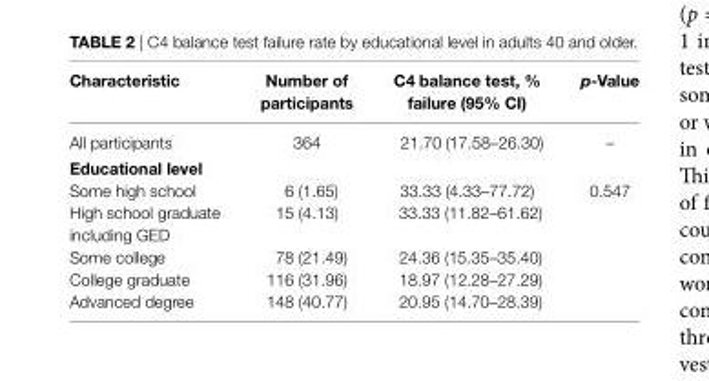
<table><thead><tr><td>characteristic</td><td>number of participants</td><td>c4 balance test, % failure (95% ci)</td><td>p-Value</td></tr></thead><tbody><tr><td>All participants</td><td>364</td><td>21.70 (17.58–26.30)</td><td>–</td></tr><tr><td colspan="4">educational level</td></tr><tr><td>Some high school</td><td>6 (1.65)</td><td>33.33 (4.33–77.72)</td><td rowspan="5">0.547</td></tr><tr><td>High school graduate including GED</td><td>15 (4.13)</td><td>33.33 (11.82–61.62)</td></tr><tr><td>Some college</td><td>78 (21.49)</td><td>24.36 (15.35–35.40)</td></tr><tr><td>College graduate</td><td>116 (31.96)</td><td>18.97 (12.28–27.29)</td></tr><tr><td>Advanced degree</td><td>148 (40.77)</td><td>20.95 (14.70–28.39)</td></tr></tbody></table>